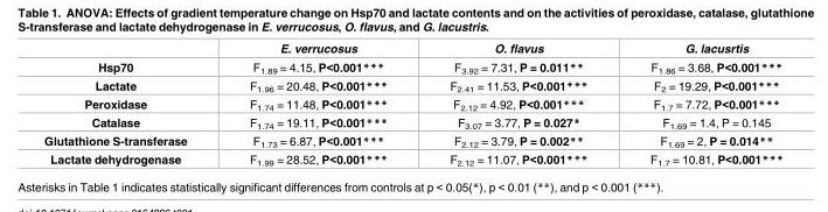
<table><thead><tr><td></td><td>E. verrucosus</td><td>O. flavus</td><td>G. lacusrtis</td></tr></thead><tbody><tr><td>Hsp70</td><td>F<sub>1.89</sub> = 4.15, P&lt;0.001***</td><td>F<sub>3.92</sub> = 7.31, P = 0.011**</td><td>F<sub>1.86</sub> = 3.68, P&lt;0.001***</td></tr><tr><td>Lactate</td><td>F<sub>1.96</sub> = 20.48, P&lt;0.001***</td><td>F<sub>2.41</sub> = 11.53, P&lt;0.001***</td><td>F<sub>2</sub> = 19.29, P&lt;0.001***</td></tr><tr><td>Peroxidase</td><td>F<sub>1.74</sub> = 11.48, P&lt;0.001***</td><td>F<sub>2.12</sub> = 4.92, P&lt;0.001***</td><td>F<sub>1.7</sub> = 7.72, P&lt;0.001***</td></tr><tr><td>Catalase</td><td>F<sub>1.74</sub> = 19.11, P&lt;0.001***</td><td>F<sub>3.07</sub> = 3.77, P = 0.027*</td><td>F<sub>1.69</sub> = 1.4, P = 0.145</td></tr><tr><td>Glutathione S-transferase</td><td>F<sub>1.73</sub> = 6.87, P&lt;0.001***</td><td>F<sub>2.12</sub> = 3.79, P = 0.002**</td><td>F<sub>1.69</sub> = 2, P = 0.014**</td></tr><tr><td>Lactate dehydrogenase</td><td>F<sub>1.99</sub> = 28.52, P&lt;0.001***</td><td>F<sub>2.12</sub> = 11.07, P&lt;0.001***</td><td>F<sub>1.7</sub> = 10.81, P&lt;0.001***</td></tr></tbody></table>